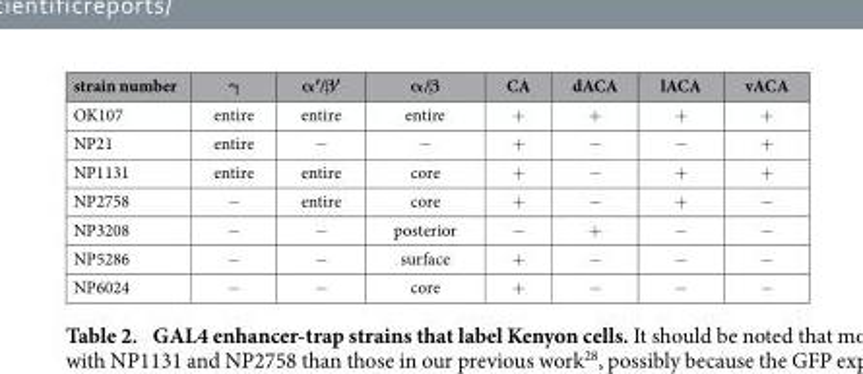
<table><thead><tr><td>strain number</td><td>γ</td><td>α′/β′</td><td>α/β</td><td>CA</td><td>dACA</td><td>lACA</td><td>vACA</td></tr></thead><tbody><tr><td>OK107</td><td>entire</td><td>entire</td><td>entire</td><td>+</td><td>+</td><td>+</td><td>+</td></tr><tr><td>NP21</td><td>entire</td><td>−</td><td>−</td><td>+</td><td>−</td><td>−</td><td>+</td></tr><tr><td>NP1131</td><td>entire</td><td>entire</td><td>core</td><td>+</td><td>−</td><td>+</td><td>+</td></tr><tr><td>NP2758</td><td>−</td><td>entire</td><td>core</td><td>+</td><td>−</td><td>+</td><td>−</td></tr><tr><td>NP3208</td><td>−</td><td>−</td><td>posterior</td><td>−</td><td>+</td><td>−</td><td>−</td></tr><tr><td>NP5286</td><td>−</td><td>−</td><td>surface</td><td>+</td><td>−</td><td>−</td><td>−</td></tr><tr><td>NP6024</td><td>−</td><td>−</td><td>core</td><td>+</td><td>−</td><td>−</td><td>−</td></tr></tbody></table>